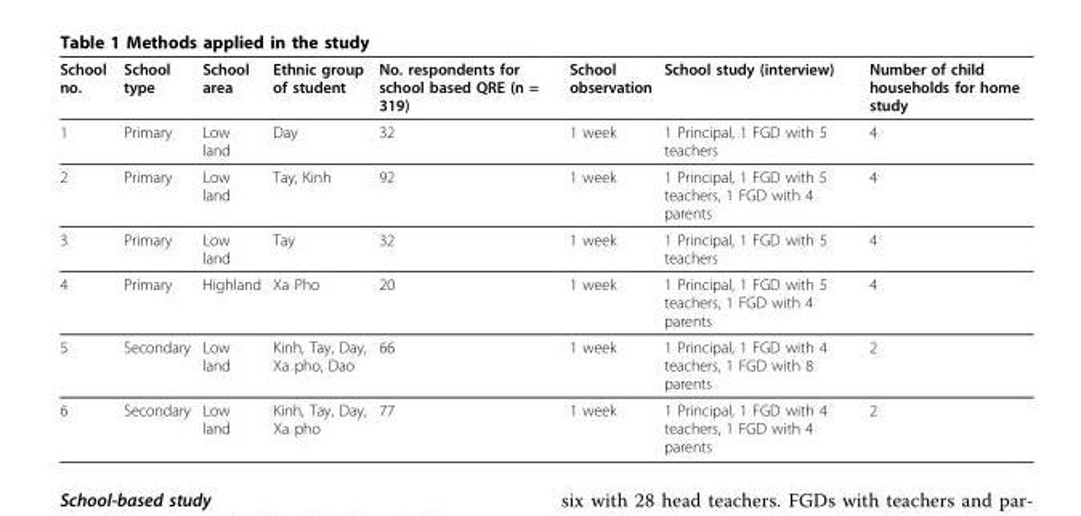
<table><thead><tr><td>School no.</td><td>School type</td><td>School area</td><td>Ethnic group of student</td><td>No. respondents for school based QRE (n = 319)</td><td>School observation</td><td>School study (interview)</td><td>Number of child households for home study</td></tr></thead><tbody><tr><td>1</td><td>Primary</td><td>Low land</td><td>Day</td><td>32</td><td>1 week</td><td>1 Principal, 1 FGD with 5 teachers</td><td>4</td></tr><tr><td>2</td><td>Primary</td><td>Low land</td><td>Tay, Kinh</td><td>92</td><td>1 week</td><td>1 Principal, 1 FGD with 5 teachers, 1 FGD with 4 parents</td><td>4</td></tr><tr><td>3</td><td>Primary</td><td>Low land</td><td>Tay</td><td>32</td><td>1 week</td><td>1 Principal, 1 FGD with 5 teachers</td><td>4</td></tr><tr><td>4</td><td>Primary</td><td>Highland</td><td>Xa Pho</td><td>20</td><td>1 week</td><td>1 Principal, 1 FGD with 5 teachers, 1 FGD with 4 parents</td><td>4</td></tr><tr><td>5</td><td>Secondary</td><td>Low land</td><td>Kinh, Tay, Day, Xa pho, Dao</td><td>66</td><td>1 week</td><td>1 Principal, 1 FGD with 4 teachers, 1 FGD with 8 parents</td><td>2</td></tr><tr><td>6</td><td>Secondary</td><td>Low land</td><td>Kinh, Tay, Day, Xa pho</td><td>77</td><td>1 week</td><td>1 Principal, 1 FGD with 4 teachers, 1 FGD with 4 parents</td><td>2</td></tr></tbody></table>